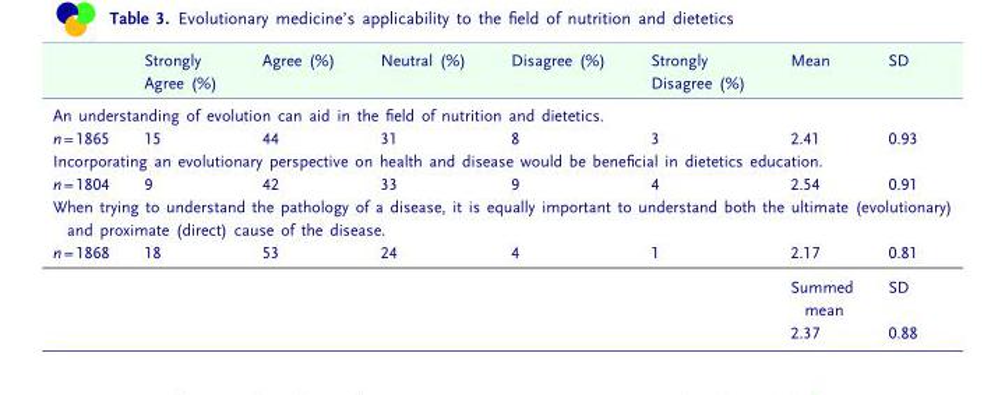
<table><thead><tr><td></td><td>Strongly Agree (%)</td><td>Agree (%)</td><td>Neutral (%)</td><td>Disagree (%)</td><td>Strongly Disagree (%)</td><td>Mean</td><td>SD</td></tr></thead><tbody><tr><td colspan="8">An understanding of evolution can aid in the field of nutrition and dietetics.</td></tr><tr><td>n = 1865</td><td>15</td><td>44</td><td>31</td><td>8</td><td>3</td><td>2.41</td><td>0.93</td></tr><tr><td colspan="8">Incorporating an evolutionary perspective on health and disease would be beneficial in dietetics education.</td></tr><tr><td>n = 1804</td><td>9</td><td>42</td><td>33</td><td>9</td><td>4</td><td>2.54</td><td>0.91</td></tr><tr><td colspan="8">When trying to understand the pathology of a disease, it is equally important to understand both the ultimate (evolutionary) and proximate (direct) cause of the disease.</td></tr><tr><td rowspan="3">n = 1868</td><td>18</td><td>53</td><td>24</td><td>4</td><td>1</td><td>2.17</td><td>0.81</td></tr><tr><td></td><td></td><td></td><td></td><td></td><td>Summed mean</td><td>SD</td></tr><tr><td></td><td></td><td></td><td></td><td></td><td>2.37</td><td>0.88</td></tr></tbody></table>